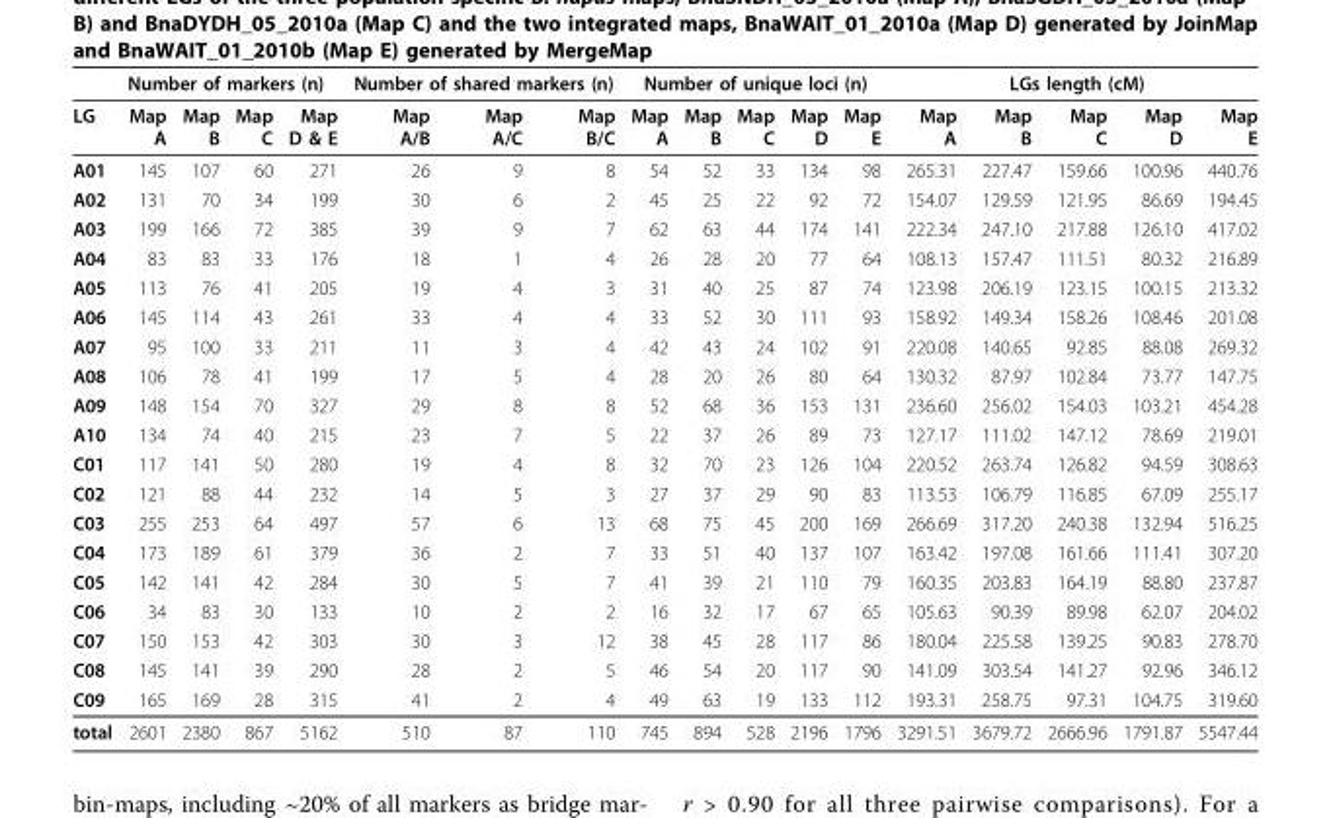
<table><thead><tr><td rowspan="2">LG</td><td colspan="4">Number of markers (n)</td><td colspan="3">Number of shared markers (n)</td><td colspan="5">Number of unique loci (n)</td><td colspan="5">LGs length (cM)</td></tr><tr><td>Map A</td><td>Map B</td><td>Map C</td><td>Map D &amp; E</td><td>Map A/B</td><td>Map A/C</td><td>Map B/C</td><td>Map A</td><td>Map B</td><td>Map C</td><td>Map D</td><td>Map E</td><td>Map A</td><td>Map B</td><td>Map C</td><td>Map D</td><td>Map E</td></tr></thead><tbody><tr><td>A01</td><td>145</td><td>107</td><td>60</td><td>271</td><td>26</td><td>9</td><td>8</td><td>54</td><td>52</td><td>33</td><td>134</td><td>98</td><td>265.31</td><td>227.47</td><td>159.66</td><td>100.96</td><td>440.76</td></tr><tr><td>A02</td><td>131</td><td>70</td><td>34</td><td>199</td><td>30</td><td>6</td><td>2</td><td>45</td><td>25</td><td>22</td><td>92</td><td>72</td><td>154.07</td><td>129.59</td><td>121.95</td><td>86.69</td><td>194.45</td></tr><tr><td>A03</td><td>199</td><td>166</td><td>72</td><td>385</td><td>39</td><td>9</td><td>7</td><td>62</td><td>63</td><td>44</td><td>174</td><td>141</td><td>222.34</td><td>247.10</td><td>217.88</td><td>126.10</td><td>417.02</td></tr><tr><td>A04</td><td>83</td><td>83</td><td>33</td><td>176</td><td>18</td><td>1</td><td>4</td><td>26</td><td>28</td><td>20</td><td>77</td><td>64</td><td>108.13</td><td>157.47</td><td>111.51</td><td>80.32</td><td>216.89</td></tr><tr><td>A05</td><td>113</td><td>76</td><td>41</td><td>205</td><td>19</td><td>4</td><td>3</td><td>31</td><td>40</td><td>25</td><td>87</td><td>74</td><td>123.98</td><td>206.19</td><td>123.15</td><td>100.15</td><td>213.32</td></tr><tr><td>A06</td><td>145</td><td>114</td><td>43</td><td>261</td><td>33</td><td>4</td><td>4</td><td>33</td><td>52</td><td>30</td><td>111</td><td>93</td><td>158.92</td><td>149.34</td><td>158.26</td><td>108.46</td><td>201.08</td></tr><tr><td>A07</td><td>95</td><td>100</td><td>33</td><td>211</td><td>11</td><td>3</td><td>4</td><td>42</td><td>43</td><td>24</td><td>102</td><td>91</td><td>220.08</td><td>140.65</td><td>92.85</td><td>88.08</td><td>269.32</td></tr><tr><td>A08</td><td>106</td><td>78</td><td>41</td><td>199</td><td>17</td><td>5</td><td>4</td><td>28</td><td>20</td><td>26</td><td>80</td><td>64</td><td>130.32</td><td>87.97</td><td>102.84</td><td>73.77</td><td>147.75</td></tr><tr><td>A09</td><td>148</td><td>154</td><td>70</td><td>327</td><td>29</td><td>8</td><td>8</td><td>52</td><td>68</td><td>36</td><td>153</td><td>131</td><td>236.60</td><td>256.02</td><td>154.03</td><td>103.21</td><td>454.28</td></tr><tr><td>A10</td><td>134</td><td>74</td><td>40</td><td>215</td><td>23</td><td>7</td><td>5</td><td>22</td><td>37</td><td>26</td><td>89</td><td>73</td><td>127.17</td><td>111.02</td><td>147.12</td><td>78.69</td><td>219.01</td></tr><tr><td>C01</td><td>117</td><td>141</td><td>50</td><td>280</td><td>19</td><td>4</td><td>8</td><td>32</td><td>70</td><td>23</td><td>126</td><td>104</td><td>220.52</td><td>263.74</td><td>126.82</td><td>94.59</td><td>308.63</td></tr><tr><td>C02</td><td>121</td><td>88</td><td>44</td><td>232</td><td>14</td><td>5</td><td>3</td><td>27</td><td>37</td><td>29</td><td>90</td><td>83</td><td>113.53</td><td>106.79</td><td>116.85</td><td>67.09</td><td>255.17</td></tr><tr><td>C03</td><td>255</td><td>253</td><td>64</td><td>497</td><td>57</td><td>6</td><td>13</td><td>68</td><td>75</td><td>45</td><td>200</td><td>169</td><td>266.69</td><td>317.20</td><td>240.38</td><td>132.94</td><td>516.25</td></tr><tr><td>C04</td><td>173</td><td>189</td><td>61</td><td>379</td><td>36</td><td>2</td><td>7</td><td>33</td><td>51</td><td>40</td><td>137</td><td>107</td><td>163.42</td><td>197.08</td><td>161.66</td><td>111.41</td><td>307.20</td></tr><tr><td>C05</td><td>142</td><td>141</td><td>42</td><td>284</td><td>30</td><td>5</td><td>7</td><td>41</td><td>39</td><td>21</td><td>110</td><td>79</td><td>160.35</td><td>203.83</td><td>164.19</td><td>88.80</td><td>237.87</td></tr><tr><td>C06</td><td>34</td><td>83</td><td>30</td><td>133</td><td>10</td><td>2</td><td>2</td><td>16</td><td>32</td><td>17</td><td>67</td><td>65</td><td>105.63</td><td>90.39</td><td>89.98</td><td>62.07</td><td>204.02</td></tr><tr><td>C07</td><td>150</td><td>153</td><td>42</td><td>303</td><td>30</td><td>3</td><td>12</td><td>38</td><td>45</td><td>28</td><td>117</td><td>86</td><td>180.04</td><td>225.58</td><td>139.25</td><td>90.83</td><td>278.70</td></tr><tr><td>C08</td><td>145</td><td>141</td><td>39</td><td>290</td><td>28</td><td>2</td><td>5</td><td>46</td><td>54</td><td>20</td><td>117</td><td>90</td><td>141.09</td><td>303.54</td><td>141.27</td><td>92.96</td><td>346.12</td></tr><tr><td>C09</td><td>165</td><td>169</td><td>28</td><td>315</td><td>41</td><td>2</td><td>4</td><td>49</td><td>63</td><td>19</td><td>133</td><td>112</td><td>193.31</td><td>258.75</td><td>97.31</td><td>104.75</td><td>319.60</td></tr><tr><td>total</td><td>2601</td><td>2380</td><td>867</td><td>5162</td><td>510</td><td>87</td><td>110</td><td>745</td><td>894</td><td>528</td><td>2196</td><td>1796</td><td>3291.51</td><td>3679.72</td><td>2666.96</td><td>1791.87</td><td>5547.44</td></tr></tbody></table>